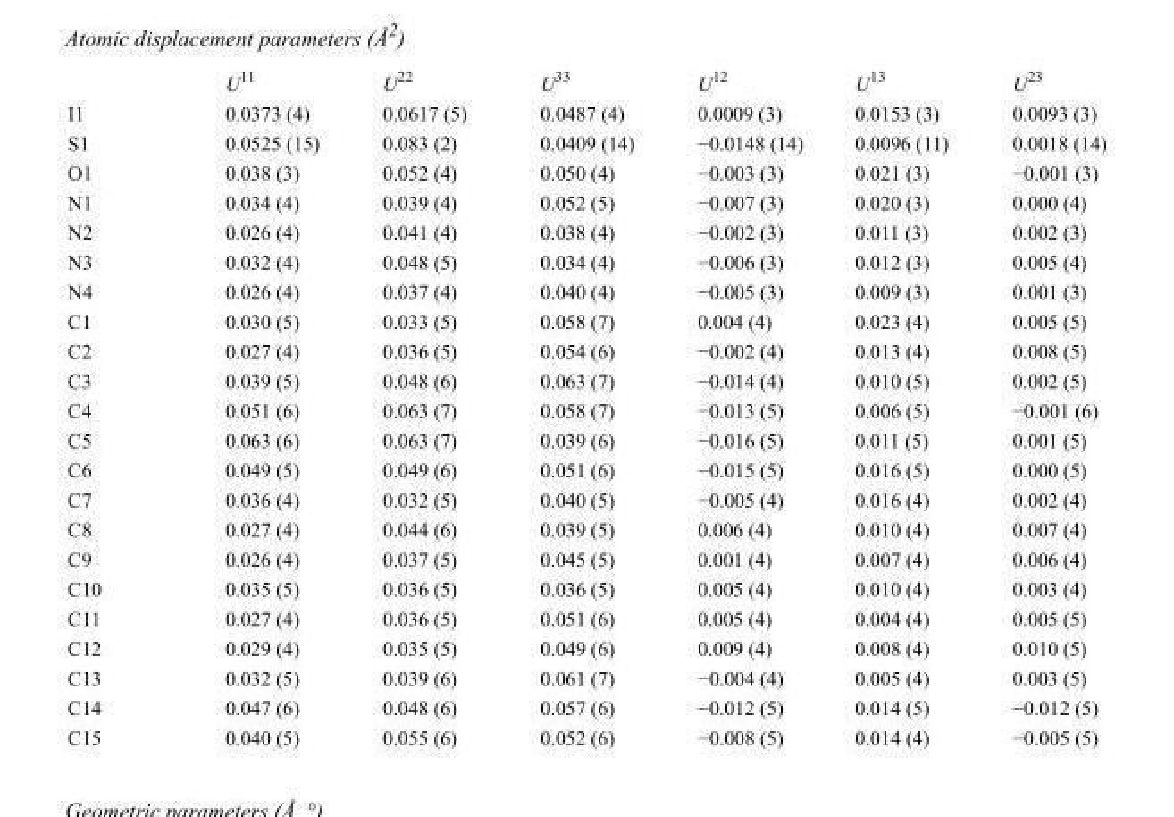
<table><thead><tr><td></td><td>U<sup>11</sup></td><td>U<sup>22</sup></td><td>U<sup>33</sup></td><td>U<sup>12</sup></td><td>U<sup>13</sup></td><td>U<sup>23</sup></td></tr></thead><tbody><tr><td>I1</td><td>0.0373 (4)</td><td>0.0617 (5)</td><td>0.0487 (4)</td><td>0.0009 (3)</td><td>0.0153 (3)</td><td>0.0093 (3)</td></tr><tr><td>S1</td><td>0.0525 (15)</td><td>0.083 (2)</td><td>0.0409 (14)</td><td>−0.0148 (14)</td><td>0.0096 (11)</td><td>0.0018 (14)</td></tr><tr><td>O1</td><td>0.038 (3)</td><td>0.052 (4)</td><td>0.050 (4)</td><td>−0.003 (3)</td><td>0.021 (3)</td><td>−0.001 (3)</td></tr><tr><td>N1</td><td>0.034 (4)</td><td>0.039 (4)</td><td>0.052 (5)</td><td>−0.007 (3)</td><td>0.020 (3)</td><td>0.000 (4)</td></tr><tr><td>N2</td><td>0.026 (4)</td><td>0.041 (4)</td><td>0.038 (4)</td><td>−0.002 (3)</td><td>0.011 (3)</td><td>0.002 (3)</td></tr><tr><td>N3</td><td>0.032 (4)</td><td>0.048 (5)</td><td>0.034 (4)</td><td>−0.006 (3)</td><td>0.012 (3)</td><td>0.005 (4)</td></tr><tr><td>N4</td><td>0.026 (4)</td><td>0.037 (4)</td><td>0.040 (4)</td><td>−0.005 (3)</td><td>0.009 (3)</td><td>0.001 (3)</td></tr><tr><td>C1</td><td>0.030 (5)</td><td>0.033 (5)</td><td>0.058 (7)</td><td>0.004 (4)</td><td>0.023 (4)</td><td>0.005 (5)</td></tr><tr><td>C2</td><td>0.027 (4)</td><td>0.036 (5)</td><td>0.054 (6)</td><td>−0.002 (4)</td><td>0.013 (4)</td><td>0.008 (5)</td></tr><tr><td>C3</td><td>0.039 (5)</td><td>0.048 (6)</td><td>0.063 (7)</td><td>−0.014 (4)</td><td>0.010 (5)</td><td>0.002 (5)</td></tr><tr><td>C4</td><td>0.051 (6)</td><td>0.063 (7)</td><td>0.058 (7)</td><td>−0.013 (5)</td><td>0.006 (5)</td><td>−0.001 (6)</td></tr><tr><td>C5</td><td>0.063 (6)</td><td>0.063 (7)</td><td>0.039 (6)</td><td>−0.016 (5)</td><td>0.011 (5)</td><td>0.001 (5)</td></tr><tr><td>C6</td><td>0.049 (5)</td><td>0.049 (6)</td><td>0.051 (6)</td><td>−0.015 (5)</td><td>0.016 (5)</td><td>0.000 (5)</td></tr><tr><td>C7</td><td>0.036 (4)</td><td>0.032 (5)</td><td>0.040 (5)</td><td>−0.005 (4)</td><td>0.016 (4)</td><td>0.002 (4)</td></tr><tr><td>C8</td><td>0.027 (4)</td><td>0.044 (6)</td><td>0.039 (5)</td><td>0.006 (4)</td><td>0.010 (4)</td><td>0.007 (4)</td></tr><tr><td>C9</td><td>0.026 (4)</td><td>0.037 (5)</td><td>0.045 (5)</td><td>0.001 (4)</td><td>0.007 (4)</td><td>0.006 (4)</td></tr><tr><td>C10</td><td>0.035 (5)</td><td>0.036 (5)</td><td>0.036 (5)</td><td>0.005 (4)</td><td>0.010 (4)</td><td>0.003 (4)</td></tr><tr><td>C11</td><td>0.027 (4)</td><td>0.036 (5)</td><td>0.051 (6)</td><td>0.005 (4)</td><td>0.004 (4)</td><td>0.005 (5)</td></tr><tr><td>C12</td><td>0.029 (4)</td><td>0.035 (5)</td><td>0.049 (6)</td><td>0.009 (4)</td><td>0.008 (4)</td><td>0.010 (5)</td></tr><tr><td>C13</td><td>0.032 (5)</td><td>0.039 (6)</td><td>0.061 (7)</td><td>−0.004 (4)</td><td>0.005 (4)</td><td>0.003 (5)</td></tr><tr><td>C14</td><td>0.047 (6)</td><td>0.048 (6)</td><td>0.057 (6)</td><td>−0.012 (5)</td><td>0.014 (5)</td><td>−0.012 (5)</td></tr><tr><td>C15</td><td>0.040 (5)</td><td>0.055 (6)</td><td>0.052 (6)</td><td>−0.008 (5)</td><td>0.014 (4)</td><td>−0.005 (5)</td></tr></tbody></table>